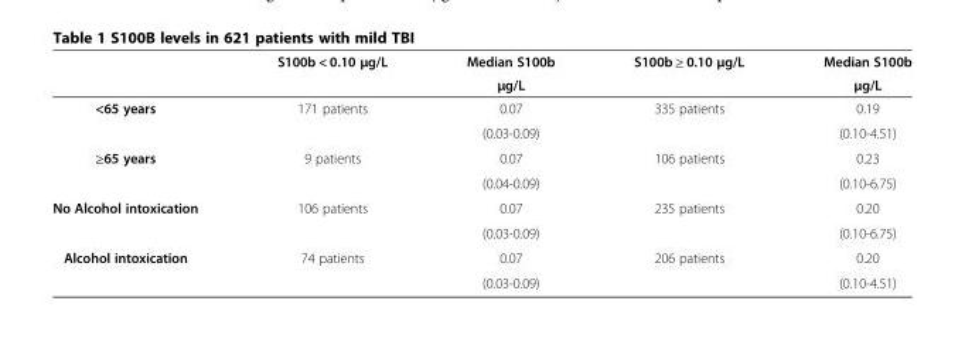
<table><thead><tr><td rowspan="2"></td><td rowspan="2">S100b &lt; 0.10 μg/L</td><td rowspan="2">Median S100b μg/L</td><td rowspan="2">S100b ≥ 0.10 μg/L</td><td rowspan="2">Median S100b μg/L</td></tr><tr></tr></thead><tbody><tr><td rowspan="2">&lt;65 years</td><td>171 patients</td><td>0.07</td><td>335 patients</td><td>0.19</td></tr><tr><td></td><td>(0.03-0.09)</td><td></td><td>(0.10-4.51)</td></tr><tr><td rowspan="2">≥65 years</td><td>9 patients</td><td>0.07</td><td>106 patients</td><td>0.23</td></tr><tr><td></td><td>(0.04-0.09)</td><td></td><td>(0.10-6.75)</td></tr><tr><td rowspan="2">No Alcohol intoxication</td><td>106 patients</td><td>0.07</td><td>235 patients</td><td>0.20</td></tr><tr><td></td><td>(0.03-0.09)</td><td></td><td>(0.10-6.75)</td></tr><tr><td rowspan="2">Alcohol intoxication</td><td>74 patients</td><td>0.07</td><td>206 patients</td><td>0.20</td></tr><tr><td></td><td>(0.03-0.09)</td><td></td><td>(0.10-4.51)</td></tr></tbody></table>